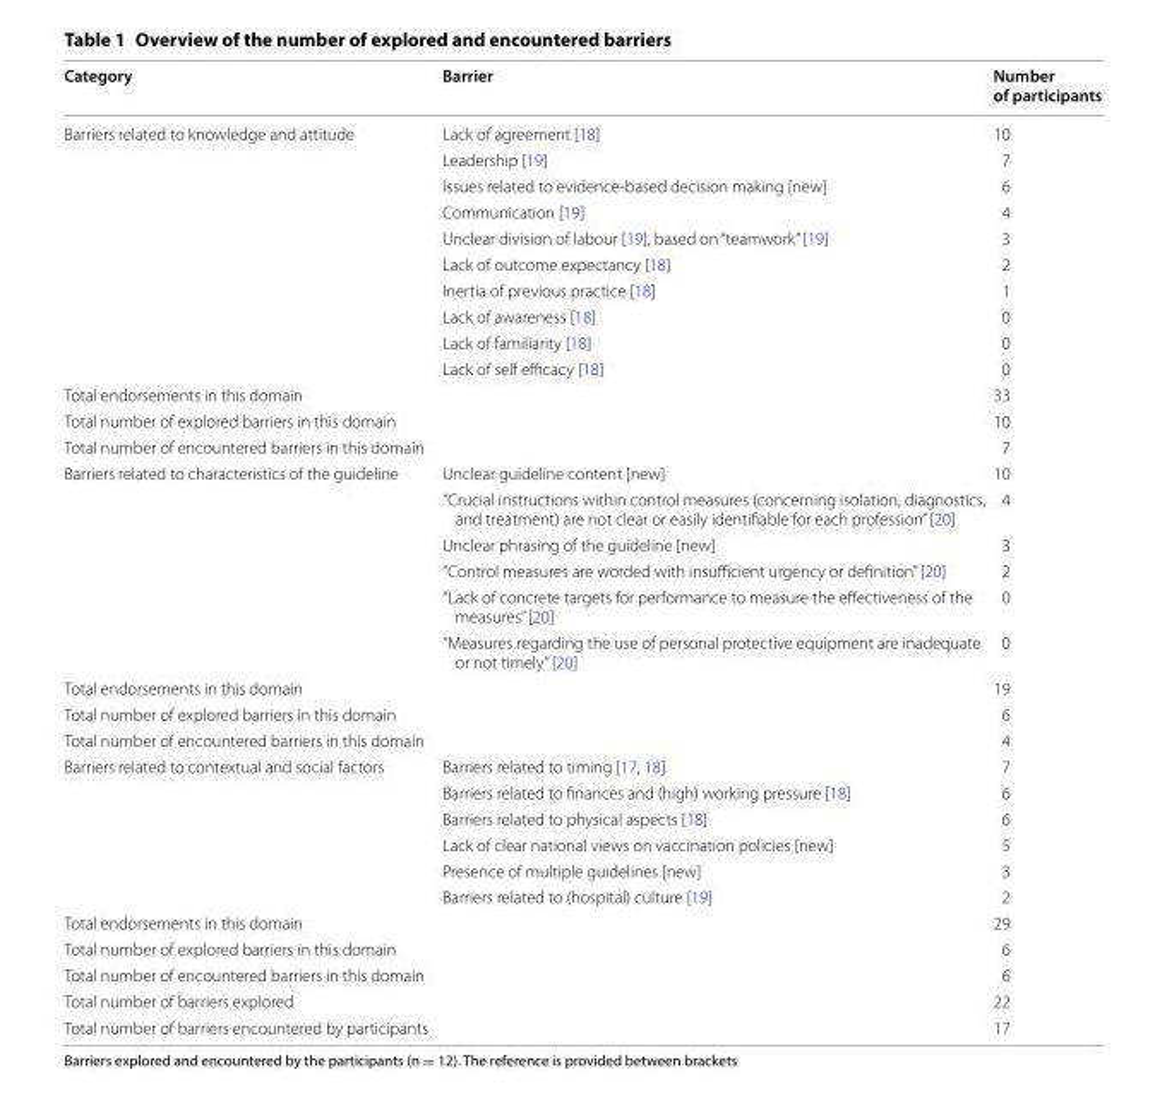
<table><thead><tr><td>Category</td><td>Barrier</td><td>Number of participants</td></tr></thead><tbody><tr><td rowspan="10">Barriers related to knowledge and attitude</td><td>Lack of agreement [18]</td><td>10</td></tr><tr><td>Leadership [19]</td><td>7</td></tr><tr><td>Issues related to evidence-based decision making [new]</td><td>6</td></tr><tr><td>Communication [19]</td><td>4</td></tr><tr><td>Unclear division of labour [19], based on “teamwork” [19]</td><td>3</td></tr><tr><td>Lack of outcome expectancy [18]</td><td>2</td></tr><tr><td>Inertia of previous practice [18]</td><td>1</td></tr><tr><td>Lack of awareness [18]</td><td>0</td></tr><tr><td>Lack of familiarity [18]</td><td>0</td></tr><tr><td>Lack of self efficacy [18]</td><td>0</td></tr><tr><td colspan="2">Total endorsements in this domain</td><td>33</td></tr><tr><td colspan="2">Total number of explored barriers in this domain</td><td>10</td></tr><tr><td colspan="2">Total number of encountered barriers in this domain</td><td>7</td></tr><tr><td rowspan="6">Barriers related to characteristics of the guideline</td><td>Unclear guideline content [new]</td><td>10</td></tr><tr><td>“Crucial instructions within control measures (concerning isolation, diagnostics, and treatment) are not clear or easily identifiable for each profession” [20]</td><td>4</td></tr><tr><td>Unclear phrasing of the guideline [new]</td><td>3</td></tr><tr><td>“Control measures are worded with insufficient urgency or definition” [20]</td><td>2</td></tr><tr><td>“Lack of concrete targets for performance to measure the effectiveness of the measures” [20]</td><td>0</td></tr><tr><td>“Measures regarding the use of personal protective equipment are inadequate or not timely” [20]</td><td>0</td></tr><tr><td colspan="2">Total endorsements in this domain</td><td>19</td></tr><tr><td colspan="2">Total number of explored barriers in this domain</td><td>6</td></tr><tr><td colspan="2">Total number of encountered barriers in this domain</td><td>4</td></tr><tr><td rowspan="6">Barriers related to contextual and social factors</td><td>Barriers related to timing [17, 18]</td><td>7</td></tr><tr><td>Barriers related to finances and (high) working pressure [18]</td><td>6</td></tr><tr><td>Barriers related to physical aspects [18]</td><td>6</td></tr><tr><td>Lack of clear national views on vaccination policies [new]</td><td>5</td></tr><tr><td>Presence of multiple guidelines [new]</td><td>3</td></tr><tr><td>Barriers related to (hospital) culture [19]</td><td>2</td></tr><tr><td colspan="2">Total endorsements in this domain</td><td>29</td></tr><tr><td colspan="2">Total number of explored barriers in this domain</td><td>6</td></tr><tr><td colspan="2">Total number of encountered barriers in this domain</td><td>6</td></tr><tr><td colspan="2">Total number of barriers explored</td><td>22</td></tr><tr><td colspan="2">Total number of barriers encountered by participants</td><td>17</td></tr></tbody></table>